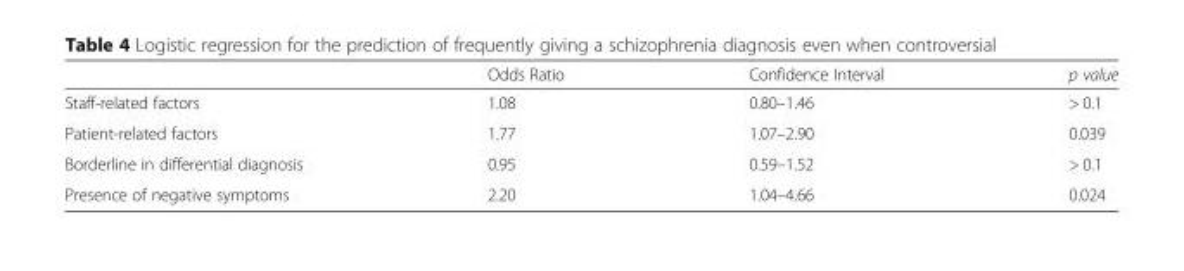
<table><thead><tr><td></td><td>Odds Ratio</td><td>Confidence Interval</td><td>p value</td></tr></thead><tbody><tr><td>Staff-related factors</td><td>1.08</td><td>0.80–1.46</td><td>&gt; 0.1</td></tr><tr><td>Patient-related factors</td><td>1.77</td><td>1.07–2.90</td><td>0.039</td></tr><tr><td>Borderline in differential diagnosis</td><td>0.95</td><td>0.59–1.52</td><td>&gt; 0.1</td></tr><tr><td>Presence of negative symptoms</td><td>2.20</td><td>1.04–4.66</td><td>0.024</td></tr></tbody></table>